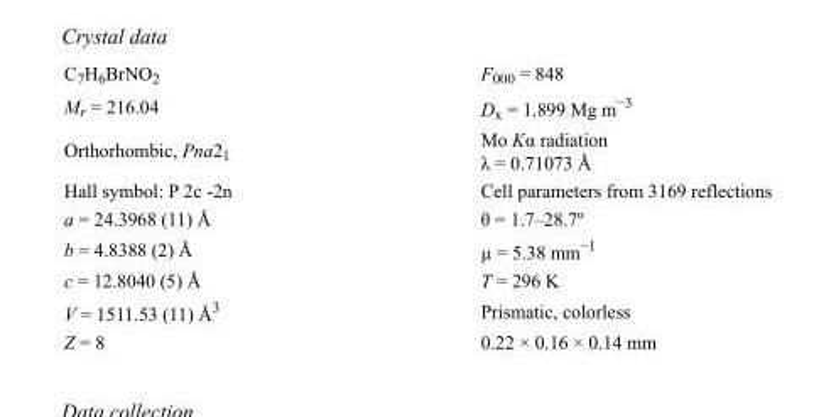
<table><tbody><tr><td>C<sub>7</sub>H<sub>6</sub>BrNO<sub>2</sub></td><td>F000 = 848</td></tr><tr><td>M<sub>r</sub> = 216.04</td><td>D<sub>x</sub> = 1.899 Mg m<sup>−3</sup></td></tr><tr><td>Orthorhombic, Pna2<sub>1</sub></td><td>Mo Kα radiation λ = 0.71073 Å</td></tr><tr><td>Hall symbol: P 2c -2n</td><td>Cell parameters from 3169 reflections</td></tr><tr><td>a = 24.3968 (11) Å</td><td>θ = 1.7–28.7º</td></tr><tr><td>b = 4.8388 (2) Å</td><td>µ = 5.38 mm<sup>−1</sup></td></tr><tr><td>c = 12.8040 (5) Å</td><td>T = 296 K</td></tr><tr><td>V = 1511.53 (11) Å<sup>3</sup></td><td>Prismatic, colorless</td></tr><tr><td>Z = 8</td><td>0.22 × 0.16 × 0.14 mm</td></tr></tbody></table>